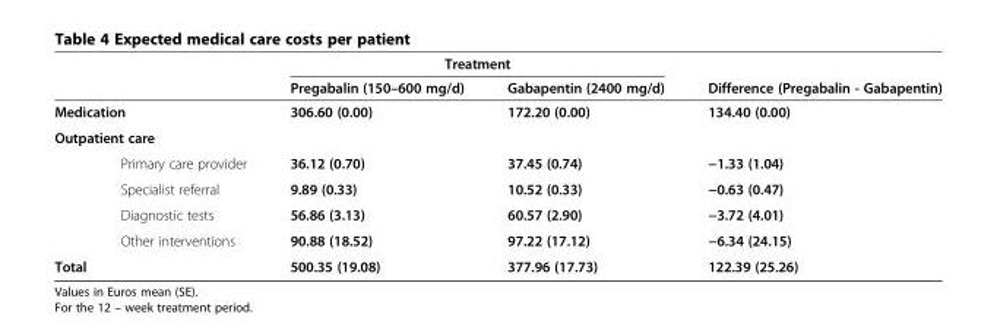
<table><thead><tr><td rowspan="2"></td><td colspan="2">Treatment</td><td rowspan="2">Difference (Pregabalin - Gabapentin)</td></tr><tr><td>Pregabalin (150–600 mg/d)</td><td>Gabapentin (2400 mg/d)</td></tr></thead><tbody><tr><td>Medication</td><td>306.60 (0.00)</td><td>172.20 (0.00)</td><td>134.40 (0.00)</td></tr><tr><td colspan="4">Outpatient care</td></tr><tr><td>Primary care provider</td><td>36.12 (0.70)</td><td>37.45 (0.74)</td><td>−1.33 (1.04)</td></tr><tr><td>Specialist referral</td><td>9.89 (0.33)</td><td>10.52 (0.33)</td><td>−0.63 (0.47)</td></tr><tr><td>Diagnostic tests</td><td>56.86 (3.13)</td><td>60.57 (2.90)</td><td>−3.72 (4.01)</td></tr><tr><td>Other interventions</td><td>90.88 (18.52)</td><td>97.22 (17.12)</td><td>−6.34 (24.15)</td></tr><tr><td>Total</td><td>500.35 (19.08)</td><td>377.96 (17.73)</td><td>122.39 (25.26)</td></tr></tbody></table>